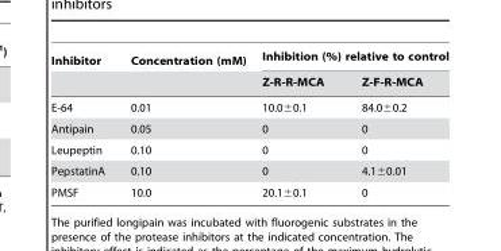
<table><thead><tr><td rowspan="2">Inhibitor</td><td rowspan="2">Concentration (mM)</td><td colspan="2">Inhibition (%) relative to control</td></tr><tr><td>Z-R-R-MCA</td><td>Z-F-R-MCA</td></tr></thead><tbody><tr><td>E-64</td><td>0.01</td><td>10.0±0.1</td><td>84.0±0.2</td></tr><tr><td>Antipain</td><td>0.05</td><td>0</td><td>0</td></tr><tr><td>Leupeptin</td><td>0.10</td><td>0</td><td>0</td></tr><tr><td>PepstatinA</td><td>0.10</td><td>0</td><td>4.1±0.01</td></tr><tr><td>PMSF</td><td>10.0</td><td>20.1±0.1</td><td>0</td></tr></tbody></table>